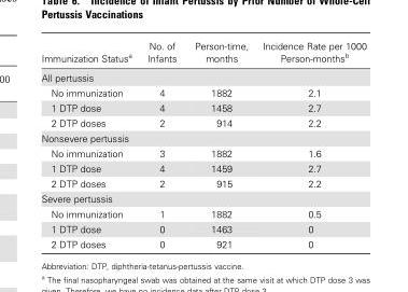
<table><thead><tr><td>Immunization Status<sup>a</sup></td><td>No. of Infants</td><td>Person-time, months</td><td>Incidence Rate per 1000 Person-months<sup>b</sup></td></tr></thead><tbody><tr><td colspan="4">All pertussis</td></tr><tr><td>No immunization</td><td>4</td><td>1882</td><td>2.1</td></tr><tr><td>1 DTP dose</td><td>4</td><td>1458</td><td>2.7</td></tr><tr><td>2 DTP doses</td><td>2</td><td>914</td><td>2.2</td></tr><tr><td colspan="4">Nonsevere pertussis</td></tr><tr><td>No immunization</td><td>3</td><td>1882</td><td>1.6</td></tr><tr><td>1 DTP dose</td><td>4</td><td>1459</td><td>2.7</td></tr><tr><td>2 DTP doses</td><td>2</td><td>915</td><td>2.2</td></tr><tr><td colspan="4">Severe pertussis</td></tr><tr><td>No immunization</td><td>1</td><td>1882</td><td>0.5</td></tr><tr><td>1 DTP dose</td><td>0</td><td>1463</td><td>0</td></tr><tr><td>2 DTP doses</td><td>0</td><td>921</td><td>0</td></tr></tbody></table>